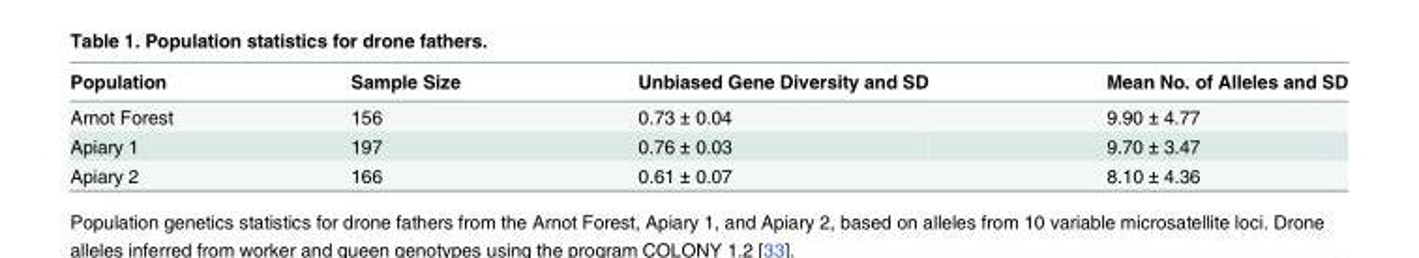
<table><thead><tr><td>Population</td><td>Sample Size</td><td>Unbiased Gene Diversity and SD</td><td>Mean No. of Alleles and SD</td></tr></thead><tbody><tr><td>Arnot Forest</td><td>156</td><td>0.73 ± 0.04</td><td>9.90 ± 4.77</td></tr><tr><td>Apiary 1</td><td>197</td><td>0.76 ± 0.03</td><td>9.70 ± 3.47</td></tr><tr><td>Apiary 2</td><td>166</td><td>0.61 ± 0.07</td><td>8.10 ± 4.36</td></tr></tbody></table>